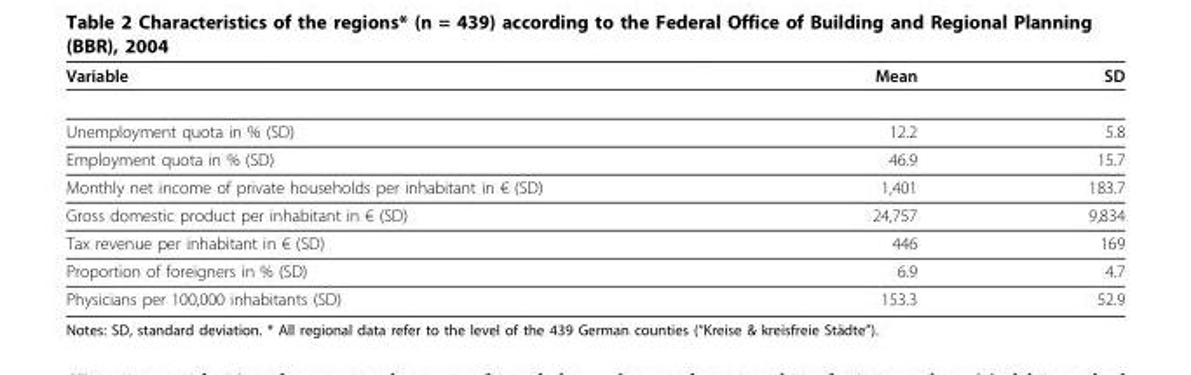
<table><thead><tr><td>Variable</td><td>Mean</td><td>SD</td></tr></thead><tbody><tr><td>Unemployment quota in % (SD)</td><td>12.2</td><td>5.8</td></tr><tr><td>Employment quota in % (SD)</td><td>46.9</td><td>15.7</td></tr><tr><td>Monthly net income of private households per inhabitant in € (SD)</td><td>1,401</td><td>183.7</td></tr><tr><td>Gross domestic product per inhabitant in € (SD)</td><td>24,757</td><td>9,834</td></tr><tr><td>Tax revenue per inhabitant in € (SD)</td><td>446</td><td>169</td></tr><tr><td>Proportion of foreigners in % (SD)</td><td>6.9</td><td>4.7</td></tr><tr><td>Physicians per 100,000 inhabitants (SD)</td><td>153.3</td><td>52.9</td></tr></tbody></table>